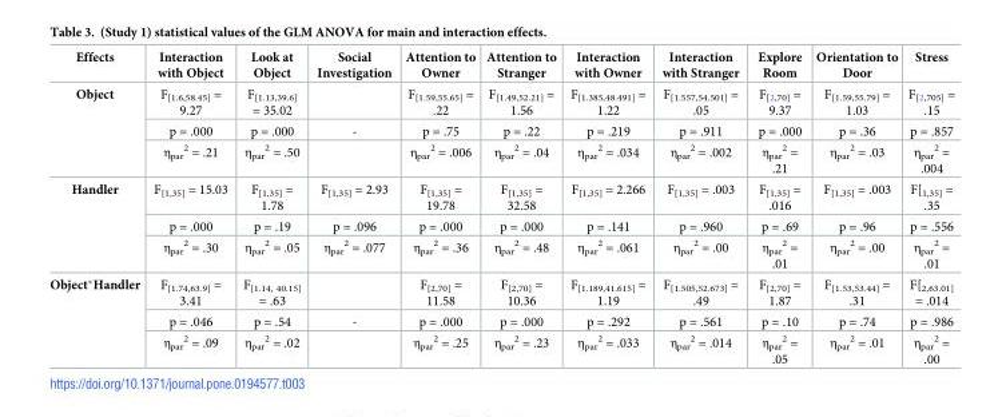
<table><thead><tr><td>Effects</td><td>Interaction with Object</td><td>Look at Object</td><td>Social Investigation</td><td>Attention to Owner</td><td>Attention to Stranger</td><td>Interaction with Owner</td><td>Interaction with Stranger</td><td>Explore Room</td><td>Orientation to Door</td><td>Stress</td></tr></thead><tbody><tr><td rowspan="3">Object</td><td>F<sub>[1.6,58.45]</sub> = 9.27</td><td>F<sub>[1.13,39.6]</sub> = 35.02</td><td></td><td>F<sub>[1.59,55.65]</sub> = .22</td><td>F<sub>[1.49,52.21]</sub> = 1.56</td><td>F<sub>[1.385,48.491]</sub> = 1.22</td><td>F<sub>[1.557,54.501]</sub> = .05</td><td>F<sub>[2,70]</sub> = 9.37</td><td>F<sub>[1.59,55.79]</sub> = 1.03</td><td>F<sub>[2,705]</sub> = .15</td></tr><tr><td>p = .000</td><td>p = .000</td><td>-</td><td>p = .75</td><td>p = .22</td><td>p = .219</td><td>p = .911</td><td>p = .000</td><td>p = .36</td><td>p = .857</td></tr><tr><td>η<sub>par</sub> <sup>2</sup> = .21</td><td>η<sub>par</sub> <sup>2</sup> = .50</td><td></td><td>η<sub>par</sub> <sup>2</sup> = .006</td><td>η<sub>par</sub> <sup>2</sup> = .04</td><td>η<sub>par</sub> <sup>2</sup> = .034</td><td>η<sub>par</sub> <sup>2</sup> = .002</td><td>η<sub>par</sub> <sup>2</sup> = .21</td><td>η<sub>par</sub> <sup>2</sup> = .03</td><td>η<sub>par</sub> <sup>2</sup> = .004</td></tr><tr><td rowspan="3">Handler</td><td>F<sub>[1,35]</sub> = 15.03</td><td>F<sub>[1,35]</sub> = 1.78</td><td>F<sub>[1,35]</sub> = 2.93</td><td>F<sub>[1,35]</sub> = 19.78</td><td>F<sub>[1,35]</sub> = 32.58</td><td>F<sub>[1,35]</sub> = 2.266</td><td>F<sub>[1,35]</sub> = .003</td><td>F<sub>[1,35]</sub> = .016</td><td>F<sub>[1,35]</sub> = .003</td><td>F[<sub>1,35]</sub> = .35</td></tr><tr><td>p = .000</td><td>p = .19</td><td>p = .096</td><td>p = .000</td><td>p = .000</td><td>p = .141</td><td>p = .960</td><td>p = .69</td><td>p = .96</td><td>p = .556</td></tr><tr><td>η<sub>par</sub> <sup>2</sup> = .30</td><td>η<sub>par</sub> <sup>2</sup> = .05</td><td>η<sub>par</sub> <sup>2</sup> = .077</td><td>η<sub>par</sub> <sup>2</sup> = .36</td><td>η<sub>par</sub> <sup>2</sup> = .48</td><td>η<sub>par</sub> <sup>2</sup> = .061</td><td>η<sub>par</sub> <sup>2</sup> = .00</td><td>η<sub>par</sub> <sup>2</sup> = .01</td><td>η<sub>par</sub> <sup>2</sup> = .00</td><td>η<sub>par</sub> <sup>2</sup> = .01</td></tr><tr><td rowspan="3">Object*Handler</td><td>F<sub>[1.74,63.9]</sub> = 3.41</td><td>F<sub>[1.14, 40.15]</sub> = .63</td><td></td><td>F<sub>[2,70]</sub> = 11.58</td><td>F<sub>[2,70]</sub> = 10.36</td><td>F<sub>[1.189,41.615]</sub> = 1.19</td><td>F<sub>[1.505,52.673]</sub> = .49</td><td>F<sub>[2,70]</sub> = 1.87</td><td>F<sub>[1.53,53.44]</sub> = .31</td><td>F[<sub>2,63.01]</sub> = .014</td></tr><tr><td>p = .046</td><td>p = .54</td><td>-</td><td>p = .000</td><td>p = .000</td><td>p = .292</td><td>p = .561</td><td>p = .10</td><td>p = .74</td><td>p = .986</td></tr><tr><td>η<sub>par</sub> <sup>2</sup> = .09</td><td>η<sub>par</sub> <sup>2</sup> = .02</td><td></td><td>η<sub>par</sub> <sup>2</sup> = .25</td><td>η<sub>par</sub> <sup>2</sup> = .23</td><td>η<sub>par</sub> <sup>2</sup> = .033</td><td>η<sub>par</sub> <sup>2</sup> = .014</td><td>η<sub>par</sub> <sup>2</sup> = .05</td><td>η<sub>par</sub> <sup>2</sup> = .01</td><td>η<sub>par</sub> <sup>2</sup> = .00</td></tr></tbody></table>